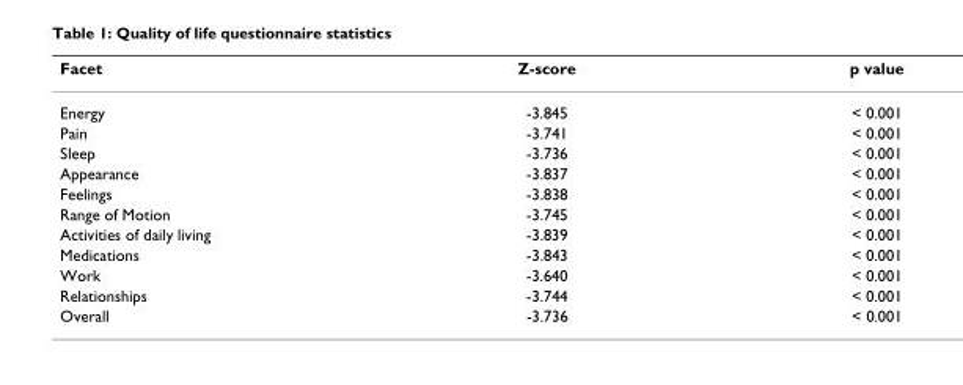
<table><thead><tr><td>Facet</td><td>Z-score</td><td>p value</td></tr></thead><tbody><tr><td>Energy</td><td>-3.845</td><td>&lt; 0.001</td></tr><tr><td>Pain</td><td>-3.741</td><td>&lt; 0.001</td></tr><tr><td>Sleep</td><td>-3.736</td><td>&lt; 0.001</td></tr><tr><td>Appearance</td><td>-3.837</td><td>&lt; 0.001</td></tr><tr><td>Feelings</td><td>-3.838</td><td>&lt; 0.001</td></tr><tr><td>Range of Motion</td><td>-3.745</td><td>&lt; 0.001</td></tr><tr><td>Activities of daily living</td><td>-3.839</td><td>&lt; 0.001</td></tr><tr><td>Medications</td><td>-3.843</td><td>&lt; 0.001</td></tr><tr><td>Work</td><td>-3.640</td><td>&lt; 0.001</td></tr><tr><td>Relationships</td><td>-3.744</td><td>&lt; 0.001</td></tr><tr><td>Overall</td><td>-3.736</td><td>&lt; 0.001</td></tr></tbody></table>